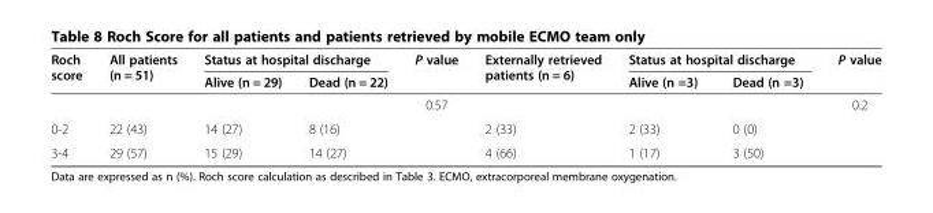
<table><thead><tr><td rowspan="2">Roch score</td><td rowspan="2">All patients (n = 51)</td><td colspan="2">Status at hospital discharge</td><td rowspan="2">P value</td><td rowspan="2">Externally retrieved patients (n = 6)</td><td colspan="2">Status at hospital discharge</td><td rowspan="2">P value</td></tr><tr><td>Alive (n = 29)</td><td>Dead (n = 22)</td><td>Alive (n =3)</td><td>Dead (n =3)</td></tr></thead><tbody><tr><td></td><td></td><td></td><td></td><td>0.57</td><td></td><td></td><td></td><td>0.2</td></tr><tr><td>0-2</td><td>22 (43)</td><td>14 (27)</td><td>8 (16)</td><td></td><td>2 (33)</td><td>2 (33)</td><td>0 (0)</td><td></td></tr><tr><td>3-4</td><td>29 (57)</td><td>15 (29)</td><td>14 (27)</td><td></td><td>4 (66)</td><td>1 (17)</td><td>3 (50)</td><td></td></tr></tbody></table>